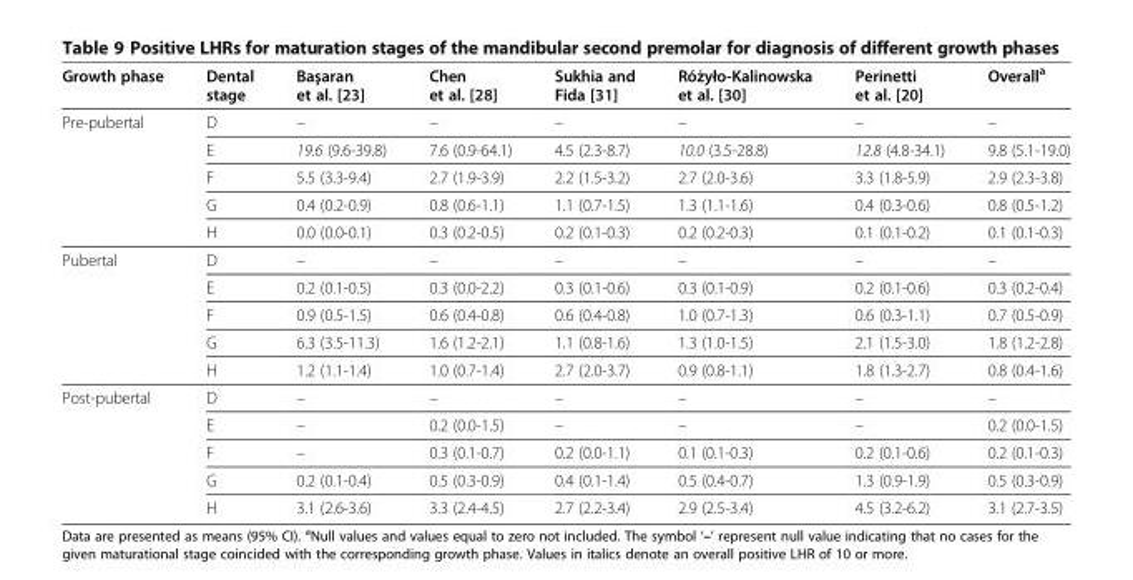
<table><thead><tr><td>Growth phase</td><td>Dental stage</td><td>Başaran et al. [23]</td><td>Chen et al. [28]</td><td>Sukhia and Fida [31]</td><td>Różyło-Kalinowska et al. [30]</td><td>Perinetti et al. [20]</td><td>Overall<sup>a</sup></td></tr></thead><tbody><tr><td rowspan="5">Pre-pubertal</td><td>D</td><td>–</td><td>–</td><td>–</td><td>–</td><td>–</td><td>–</td></tr><tr><td>E</td><td>19.6 (9.6-39.8)</td><td>7.6 (0.9-64.1)</td><td>4.5 (2.3-8.7)</td><td>10.0 (3.5-28.8)</td><td>12.8 (4.8-34.1)</td><td>9.8 (5.1-19.0)</td></tr><tr><td>F</td><td>5.5 (3.3-9.4)</td><td>2.7 (1.9-3.9)</td><td>2.2 (1.5-3.2)</td><td>2.7 (2.0-3.6)</td><td>3.3 (1.8-5.9)</td><td>2.9 (2.3-3.8)</td></tr><tr><td>G</td><td>0.4 (0.2-0.9)</td><td>0.8 (0.6-1.1)</td><td>1.1 (0.7-1.5)</td><td>1.3 (1.1-1.6)</td><td>0.4 (0.3-0.6)</td><td>0.8 (0.5-1.2)</td></tr><tr><td>H</td><td>0.0 (0.0-0.1)</td><td>0.3 (0.2-0.5)</td><td>0.2 (0.1-0.3)</td><td>0.2 (0.2-0.3)</td><td>0.1 (0.1-0.2)</td><td>0.1 (0.1-0.3)</td></tr><tr><td rowspan="5">Pubertal</td><td>D</td><td>–</td><td>–</td><td>–</td><td>–</td><td>–</td><td>–</td></tr><tr><td>E</td><td>0.2 (0.1-0.5)</td><td>0.3 (0.0-2.2)</td><td>0.3 (0.1-0.6)</td><td>0.3 (0.1-0.9)</td><td>0.2 (0.1-0.6)</td><td>0.3 (0.2-0.4)</td></tr><tr><td>F</td><td>0.9 (0.5-1.5)</td><td>0.6 (0.4-0.8)</td><td>0.6 (0.4-0.8)</td><td>1.0 (0.7-1.3)</td><td>0.6 (0.3-1.1)</td><td>0.7 (0.5-0.9)</td></tr><tr><td>G</td><td>6.3 (3.5-11.3)</td><td>1.6 (1.2-2.1)</td><td>1.1 (0.8-1.6)</td><td>1.3 (1.0-1.5)</td><td>2.1 (1.5-3.0)</td><td>1.8 (1.2-2.8)</td></tr><tr><td>H</td><td>1.2 (1.1-1.4)</td><td>1.0 (0.7-1.4)</td><td>2.7 (2.0-3.7)</td><td>0.9 (0.8-1.1)</td><td>1.8 (1.3-2.7)</td><td>0.8 (0.4-1.6)</td></tr><tr><td rowspan="5">Post-pubertal</td><td>D</td><td>–</td><td>–</td><td>–</td><td>–</td><td>–</td><td>–</td></tr><tr><td>E</td><td>–</td><td>0.2 (0.0-1.5)</td><td>–</td><td>–</td><td>–</td><td>0.2 (0.0-1.5)</td></tr><tr><td>F</td><td>–</td><td>0.3 (0.1-0.7)</td><td>0.2 (0.0-1.1)</td><td>0.1 (0.1-0.3)</td><td>0.2 (0.1-0.6)</td><td>0.2 (0.1-0.3)</td></tr><tr><td>G</td><td>0.2 (0.1-0.4)</td><td>0.5 (0.3-0.9)</td><td>0.4 (0.1-1.4)</td><td>0.5 (0.4-0.7)</td><td>1.3 (0.9-1.9)</td><td>0.5 (0.3-0.9)</td></tr><tr><td>H</td><td>3.1 (2.6-3.6)</td><td>3.3 (2.4-4.5)</td><td>2.7 (2.2-3.4)</td><td>2.9 (2.5-3.4)</td><td>4.5 (3.2-6.2)</td><td>3.1 (2.7-3.5)</td></tr></tbody></table>